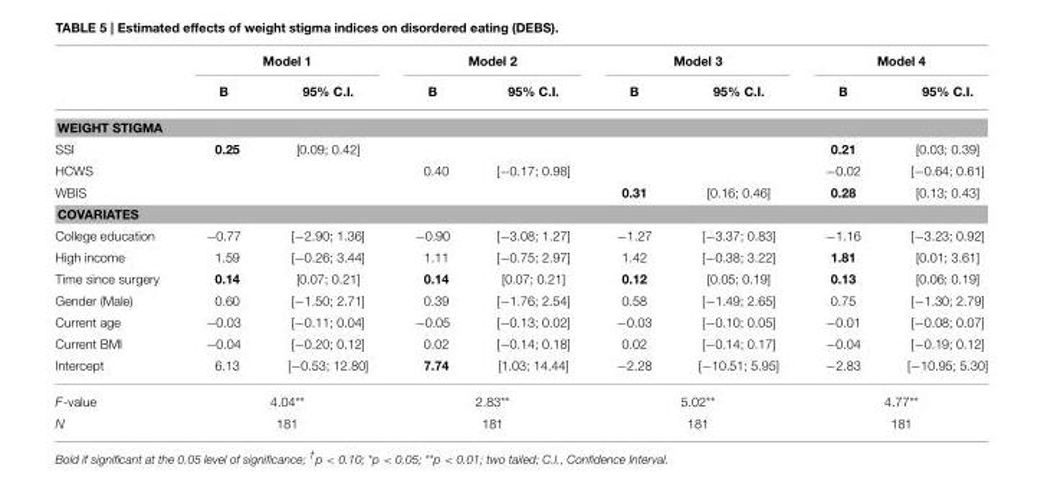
<table><thead><tr><td rowspan="2"></td><td colspan="2">Model 1</td><td colspan="2">Model 2</td><td colspan="2">Model 3</td><td colspan="2">Model 4</td></tr><tr><td>B</td><td>95% C.I.</td><td>B</td><td>95% C.I.</td><td>B</td><td>95% C.I.</td><td>B</td><td>95% C.I.</td></tr></thead><tbody><tr><td colspan="9">WEIGHT STIGMA</td></tr><tr><td>SSI</td><td>0.25</td><td>[0.09; 0.42]</td><td></td><td></td><td></td><td></td><td>0.21</td><td>[0.03; 0.39]</td></tr><tr><td>HCWS</td><td></td><td></td><td>0.40</td><td>[−0.17; 0.98]</td><td></td><td></td><td>−0.02</td><td>[−0.64; 0.61]</td></tr><tr><td>WBIS</td><td></td><td></td><td></td><td></td><td>0.31</td><td>[0.16; 0.46]</td><td>0.28</td><td>[0.13; 0.43]</td></tr><tr><td colspan="9">COVARIATES</td></tr><tr><td>College education</td><td>−0.77</td><td>[−2.90; 1.36]</td><td>−0.90</td><td>[−3.08; 1.27]</td><td>−1.27</td><td>[−3.37; 0.83]</td><td>−1.16</td><td>[−3.23; 0.92]</td></tr><tr><td>High income</td><td>1.59</td><td>[−0.26; 3.44]</td><td>1.11</td><td>[−0.75; 2.97]</td><td>1.42</td><td>[−0.38; 3.22]</td><td>1.81</td><td>[0.01; 3.61]</td></tr><tr><td>Time since surgery</td><td>0.14</td><td>[0.07; 0.21]</td><td>0.14</td><td>[0.07; 0.21]</td><td>0.12</td><td>[0.05; 0.19]</td><td>0.13</td><td>[0.06; 0.19]</td></tr><tr><td>Gender (Male)</td><td>0.60</td><td>[−1.50; 2.71]</td><td>0.39</td><td>[−1.76; 2.54]</td><td>0.58</td><td>[−1.49; 2.65]</td><td>0.75</td><td>[−1.30; 2.79]</td></tr><tr><td>Current age</td><td>−0.03</td><td>[−0.11; 0.04]</td><td>−0.05</td><td>[−0.13; 0.02]</td><td>−0.03</td><td>[−0.10; 0.05]</td><td>−0.01</td><td>[−0.08; 0.07]</td></tr><tr><td>Current BMI</td><td>−0.04</td><td>[−0.20; 0.12]</td><td>0.02</td><td>[−0.14; 0.18]</td><td>0.02</td><td>[−0.14; 0.17]</td><td>−0.04</td><td>[−0.19; 0.12]</td></tr><tr><td>Intercept</td><td>6.13</td><td>[−0.53; 12.80]</td><td>7.74</td><td>[1.03; 14.44]</td><td>−2.28</td><td>[−10.51; 5.95]</td><td>−2.83</td><td>[−10.95; 5.30]</td></tr><tr><td>F-value</td><td colspan="2">4.04**</td><td colspan="2">2.83**</td><td colspan="2">5.02**</td><td colspan="2">4.77**</td></tr><tr><td>N</td><td colspan="2">181</td><td colspan="2">181</td><td colspan="2">181</td><td colspan="2">181</td></tr></tbody></table>